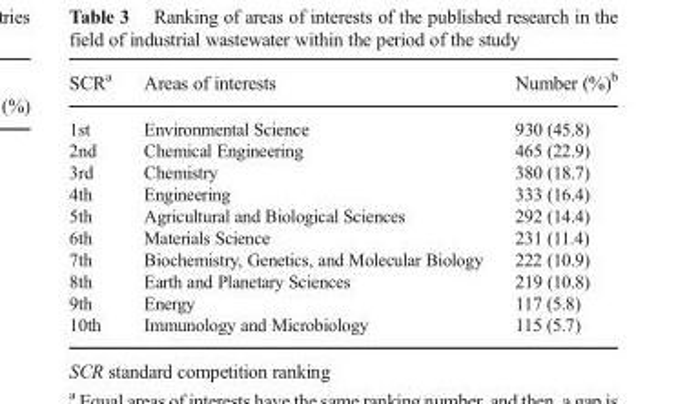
<table><thead><tr><td>SCR<sup>a</sup></td><td>Areas of interests</td><td>Number (%)<sup>b</sup></td></tr></thead><tbody><tr><td>1st</td><td>Environmental Science</td><td>930 (45.8)</td></tr><tr><td>2nd</td><td>Chemical Engineering</td><td>465 (22.9)</td></tr><tr><td>3rd</td><td>Chemistry</td><td>380 (18.7)</td></tr><tr><td>4th</td><td>Engineering</td><td>333 (16.4)</td></tr><tr><td>5th</td><td>Agricultural and Biological Sciences</td><td>292 (14.4)</td></tr><tr><td>6th</td><td>Materials Science</td><td>231 (11.4)</td></tr><tr><td>7th</td><td>Biochemistry, Genetics, and Molecular Biology</td><td>222 (10.9)</td></tr><tr><td>8th</td><td>Earth and Planetary Sciences</td><td>219 (10.8)</td></tr><tr><td>9th</td><td>Energy</td><td>117 (5.8)</td></tr><tr><td>10th</td><td>Immunology and Microbiology</td><td>115 (5.7)</td></tr></tbody></table>